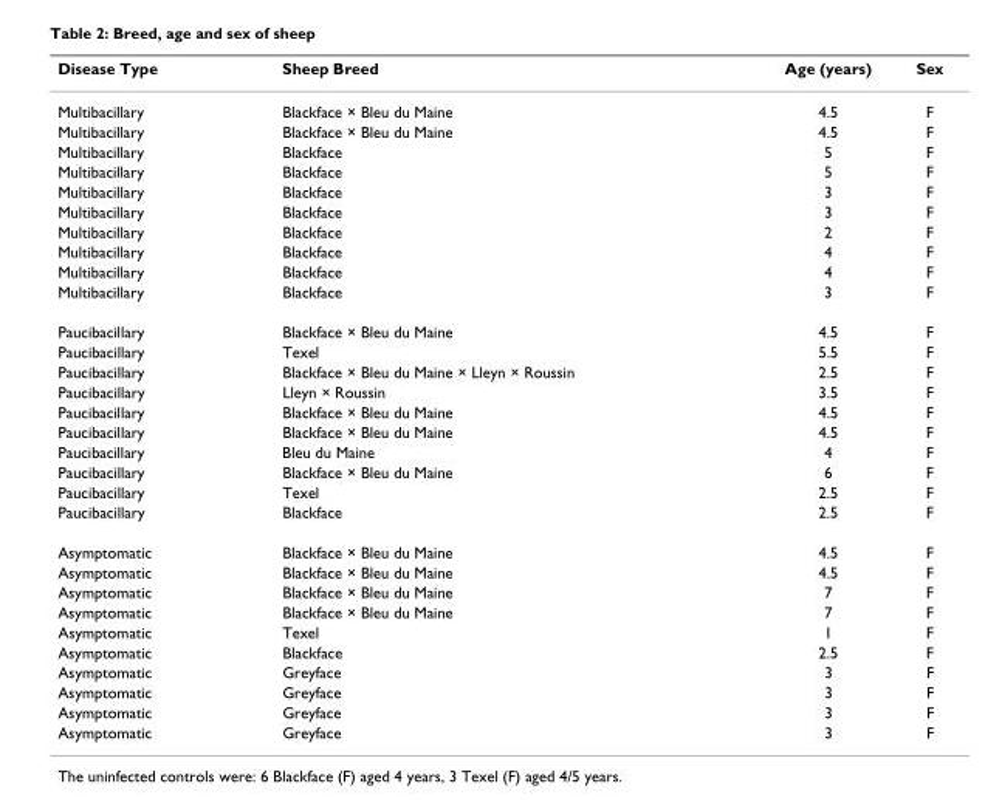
<table><thead><tr><td>Disease Type</td><td>Sheep Breed</td><td>Age (years)</td><td>Sex</td></tr></thead><tbody><tr><td>Multibacillary</td><td>Blackface × Bleu du Maine</td><td>4.5</td><td>F</td></tr><tr><td>Multibacillary</td><td>Blackface × Bleu du Maine</td><td>4.5</td><td>F</td></tr><tr><td>Multibacillary</td><td>Blackface</td><td>5</td><td>F</td></tr><tr><td>Multibacillary</td><td>Blackface</td><td>5</td><td>F</td></tr><tr><td>Multibacillary</td><td>Blackface</td><td>3</td><td>F</td></tr><tr><td>Multibacillary</td><td>Blackface</td><td>3</td><td>F</td></tr><tr><td>Multibacillary</td><td>Blackface</td><td>2</td><td>F</td></tr><tr><td>Multibacillary</td><td>Blackface</td><td>4</td><td>F</td></tr><tr><td>Multibacillary</td><td>Blackface</td><td>4</td><td>F</td></tr><tr><td>Multibacillary</td><td>Blackface</td><td>3</td><td>F</td></tr><tr><td>Paucibacillary</td><td>Blackface × Bleu du Maine</td><td>4.5</td><td>F</td></tr><tr><td>Paucibacillary</td><td>Texel</td><td>5.5</td><td>F</td></tr><tr><td>Paucibacillary</td><td>Blackface × Bleu du Maine × Lleyn × Roussin</td><td>2.5</td><td>F</td></tr><tr><td>Paucibacillary</td><td>Lleyn × Roussin</td><td>3.5</td><td>F</td></tr><tr><td>Paucibacillary</td><td>Blackface × Bleu du Maine</td><td>4.5</td><td>F</td></tr><tr><td>Paucibacillary</td><td>Blackface × Bleu du Maine</td><td>4.5</td><td>F</td></tr><tr><td>Paucibacillary</td><td>Bleu du Maine</td><td>4</td><td>F</td></tr><tr><td>Paucibacillary</td><td>Blackface × Bleu du Maine</td><td>6</td><td>F</td></tr><tr><td>Paucibacillary</td><td>Texel</td><td>2.5</td><td>F</td></tr><tr><td>Paucibacillary</td><td>Blackface</td><td>2.5</td><td>F</td></tr><tr><td>Asymptomatic</td><td>Blackface × Bleu du Maine</td><td>4.5</td><td>F</td></tr><tr><td>Asymptomatic</td><td>Blackface × Bleu du Maine</td><td>4.5</td><td>F</td></tr><tr><td>Asymptomatic</td><td>Blackface × Bleu du Maine</td><td>7</td><td>F</td></tr><tr><td>Asymptomatic</td><td>Blackface × Bleu du Maine</td><td>7</td><td>F</td></tr><tr><td>Asymptomatic</td><td>Texel</td><td>1</td><td>F</td></tr><tr><td>Asymptomatic</td><td>Blackface</td><td>2.5</td><td>F</td></tr><tr><td>Asymptomatic</td><td>Greyface</td><td>3</td><td>F</td></tr><tr><td>Asymptomatic</td><td>Greyface</td><td>3</td><td>F</td></tr><tr><td>Asymptomatic</td><td>Greyface</td><td>3</td><td>F</td></tr><tr><td>Asymptomatic</td><td>Greyface</td><td>3</td><td>F</td></tr></tbody></table>